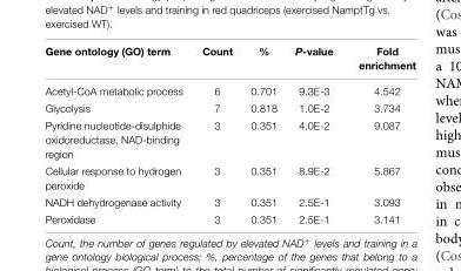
<table><thead><tr><td>Gene ontology (GO) term</td><td>Count</td><td>%</td><td>P-value</td><td>Fold enrichment</td></tr></thead><tbody><tr><td>Acetyl-CoA metabolic process</td><td>6</td><td>0.701</td><td>9.3E-3</td><td>4.542</td></tr><tr><td>Glycolysis</td><td>7</td><td>0.818</td><td>1.0E-2</td><td>3.734</td></tr><tr><td>Pyridine nucleotide-disulphide oxidoreductase, NAD-binding region</td><td>3</td><td>0.351</td><td>4.0E-2</td><td>9.087</td></tr><tr><td>Cellular response to hydrogen peroxide</td><td>3</td><td>0.351</td><td>8.9E-2</td><td>5.867</td></tr><tr><td>NADH dehydrogenase activity</td><td>3</td><td>0.351</td><td>2.5E-1</td><td>3.093</td></tr><tr><td>Peroxidase</td><td>3</td><td>0.351</td><td>2.5E-1</td><td>3.141</td></tr></tbody></table>